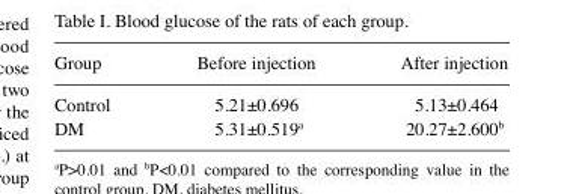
<table><thead><tr><td>Group</td><td>Before injection</td><td>After injection</td></tr></thead><tbody><tr><td>Control</td><td>5.21±0.696</td><td>5.13±0.464</td></tr><tr><td>DM</td><td>5.31±0.519a</td><td>20.27±2.600b</td></tr></tbody></table>